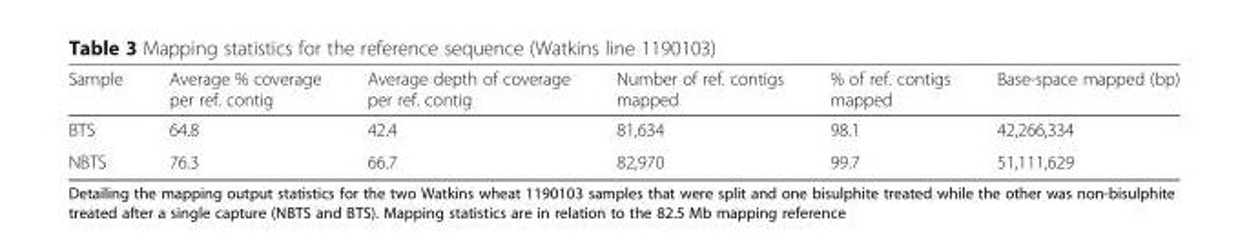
<table><thead><tr><td>Sample</td><td>Average % coverage per ref. contig</td><td>Average depth of coverage per ref. contig</td><td>Number of ref. contigs mapped</td><td>% of ref. contigs mapped</td><td>Base-space mapped (bp)</td></tr></thead><tbody><tr><td>BTS</td><td>64.8</td><td>42.4</td><td>81,634</td><td>98.1</td><td>42,266,334</td></tr><tr><td>NBTS</td><td>76.3</td><td>66.7</td><td>82,970</td><td>99.7</td><td>51,111,629</td></tr></tbody></table>